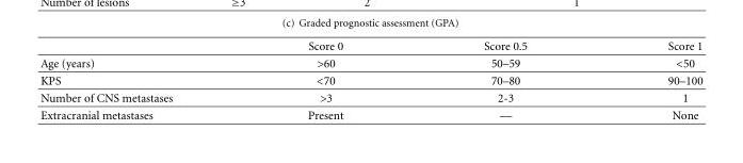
<table><thead><tr><td></td><td>Score 0</td><td>Score 0.5</td><td>Score 1</td></tr></thead><tbody><tr><td>Age (years)</td><td>&gt;60</td><td>50–59</td><td>&lt;50</td></tr><tr><td>KPS</td><td>&lt;70</td><td>70–80</td><td>90–100</td></tr><tr><td>Number of CNS metastases</td><td>&gt;3</td><td>2-3</td><td>1</td></tr><tr><td>Extracranial metastases</td><td>Present</td><td>—</td><td>None</td></tr></tbody></table>